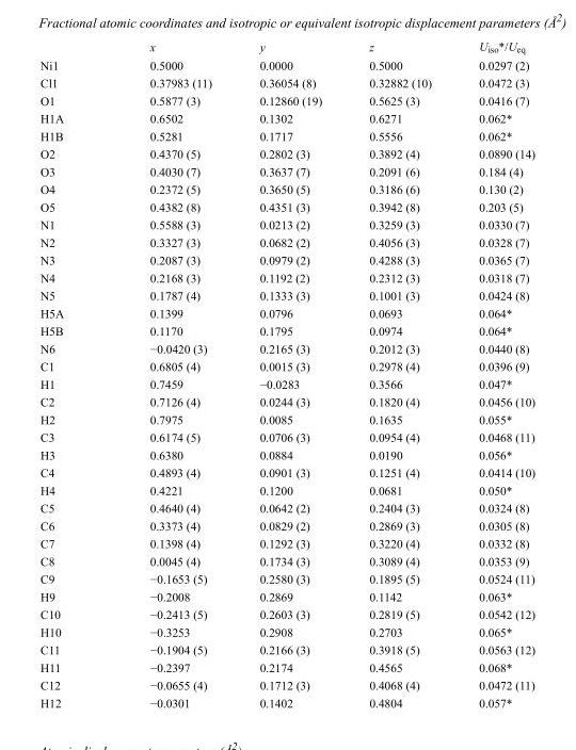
<table><thead><tr><td></td><td>x</td><td>y</td><td>z</td><td>U<sub>iso</sub>*/U<sub>eq</sub></td></tr></thead><tbody><tr><td>Ni1</td><td>0.5000</td><td>0.0000</td><td>0.5000</td><td>0.0297 (2)</td></tr><tr><td>Cl1</td><td>0.37983 (11)</td><td>0.36054 (8)</td><td>0.32882 (10)</td><td>0.0472 (3)</td></tr><tr><td>O1</td><td>0.5877 (3)</td><td>0.12860 (19)</td><td>0.5625 (3)</td><td>0.0416 (7)</td></tr><tr><td>H1A</td><td>0.6502</td><td>0.1302</td><td>0.6271</td><td>0.062*</td></tr><tr><td>H1B</td><td>0.5281</td><td>0.1717</td><td>0.5556</td><td>0.062*</td></tr><tr><td>O2</td><td>0.4370 (5)</td><td>0.2802 (3)</td><td>0.3892 (4)</td><td>0.0890 (14)</td></tr><tr><td>O3</td><td>0.4030 (7)</td><td>0.3637 (7)</td><td>0.2091 (6)</td><td>0.184 (4)</td></tr><tr><td>O4</td><td>0.2372 (5)</td><td>0.3650 (5)</td><td>0.3186 (6)</td><td>0.130 (2)</td></tr><tr><td>O5</td><td>0.4382 (8)</td><td>0.4351 (3)</td><td>0.3942 (8)</td><td>0.203 (5)</td></tr><tr><td>N1</td><td>0.5588 (3)</td><td>0.0213 (2)</td><td>0.3259 (3)</td><td>0.0330 (7)</td></tr><tr><td>N2</td><td>0.3327 (3)</td><td>0.0682 (2)</td><td>0.4056 (3)</td><td>0.0328 (7)</td></tr><tr><td>N3</td><td>0.2087 (3)</td><td>0.0979 (2)</td><td>0.4288 (3)</td><td>0.0365 (7)</td></tr><tr><td>N4</td><td>0.2168 (3)</td><td>0.1192 (2)</td><td>0.2312 (3)</td><td>0.0318 (7)</td></tr><tr><td>N5</td><td>0.1787 (4)</td><td>0.1333 (3)</td><td>0.1001 (3)</td><td>0.0424 (8)</td></tr><tr><td>H5A</td><td>0.1399</td><td>0.0796</td><td>0.0693</td><td>0.064*</td></tr><tr><td>H5B</td><td>0.1170</td><td>0.1795</td><td>0.0974</td><td>0.064*</td></tr><tr><td>N6</td><td>−0.0420 (3)</td><td>0.2165 (3)</td><td>0.2012 (3)</td><td>0.0440 (8)</td></tr><tr><td>C1</td><td>0.6805 (4)</td><td>0.0015 (3)</td><td>0.2978 (4)</td><td>0.0396 (9)</td></tr><tr><td>H1</td><td>0.7459</td><td>−0.0283</td><td>0.3566</td><td>0.047*</td></tr><tr><td>C2</td><td>0.7126 (4)</td><td>0.0244 (3)</td><td>0.1820 (4)</td><td>0.0456 (10)</td></tr><tr><td>H2</td><td>0.7975</td><td>0.0085</td><td>0.1635</td><td>0.055*</td></tr><tr><td>C3</td><td>0.6174 (5)</td><td>0.0706 (3)</td><td>0.0954 (4)</td><td>0.0468 (11)</td></tr><tr><td>H3</td><td>0.6380</td><td>0.0884</td><td>0.0190</td><td>0.056*</td></tr><tr><td>C4</td><td>0.4893 (4)</td><td>0.0901 (3)</td><td>0.1251 (4)</td><td>0.0414 (10)</td></tr><tr><td>H4</td><td>0.4221</td><td>0.1200</td><td>0.0681</td><td>0.050*</td></tr><tr><td>C5</td><td>0.4640 (4)</td><td>0.0642 (2)</td><td>0.2404 (3)</td><td>0.0324 (8)</td></tr><tr><td>C6</td><td>0.3373 (4)</td><td>0.0829 (2)</td><td>0.2869 (3)</td><td>0.0305 (8)</td></tr><tr><td>C7</td><td>0.1398 (4)</td><td>0.1292 (3)</td><td>0.3220 (4)</td><td>0.0332 (8)</td></tr><tr><td>C8</td><td>0.0045 (4)</td><td>0.1734 (3)</td><td>0.3089 (4)</td><td>0.0353 (9)</td></tr><tr><td>C9</td><td>−0.1653 (5)</td><td>0.2580 (3)</td><td>0.1895 (5)</td><td>0.0524 (11)</td></tr><tr><td>H9</td><td>−0.2008</td><td>0.2869</td><td>0.1142</td><td>0.063*</td></tr><tr><td>C10</td><td>−0.2413 (5)</td><td>0.2603 (3)</td><td>0.2819 (5)</td><td>0.0542 (12)</td></tr><tr><td>H10</td><td>−0.3253</td><td>0.2908</td><td>0.2703</td><td>0.065*</td></tr><tr><td>C11</td><td>−0.1904 (5)</td><td>0.2166 (3)</td><td>0.3918 (5)</td><td>0.0563 (12)</td></tr><tr><td>H11</td><td>−0.2397</td><td>0.2174</td><td>0.4565</td><td>0.068*</td></tr><tr><td>C12</td><td>−0.0655 (4)</td><td>0.1712 (3)</td><td>0.4068 (4)</td><td>0.0472 (11)</td></tr><tr><td>H12</td><td>−0.0301</td><td>0.1402</td><td>0.4804</td><td>0.057*</td></tr></tbody></table>